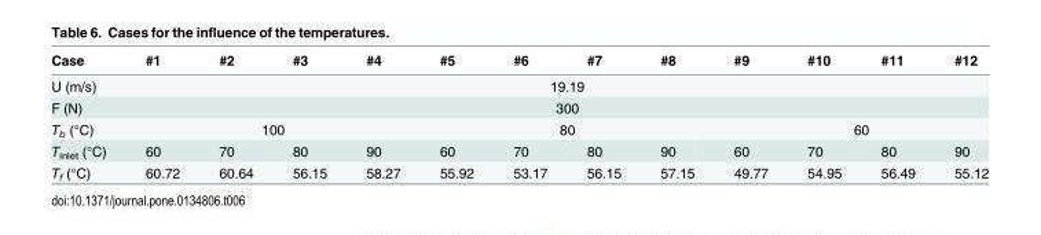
<table><thead><tr><td>Case</td><td>#1</td><td>#2</td><td>#3</td><td>#4</td><td>#5</td><td>#6</td><td>#7</td><td>#8</td><td>#9</td><td>#10</td><td>#11</td><td>#12</td></tr></thead><tbody><tr><td>U (m/s)</td><td colspan="12">19.19</td></tr><tr><td>F (N)</td><td colspan="12">300</td></tr><tr><td>T<sub>b</sub> (°C)</td><td colspan="4">100</td><td colspan="4">80</td><td colspan="4">60</td></tr><tr><td>T<sub>inlet</sub> (°C)</td><td>60</td><td>70</td><td>80</td><td>90</td><td>60</td><td>70</td><td>80</td><td>90</td><td>60</td><td>70</td><td>80</td><td>90</td></tr><tr><td>T<sub>f</sub> (°C)</td><td>60.72</td><td>60.64</td><td>56.15</td><td>58.27</td><td>55.92</td><td>53.17</td><td>56.15</td><td>57.15</td><td>49.77</td><td>54.95</td><td>56.49</td><td>55.12</td></tr></tbody></table>